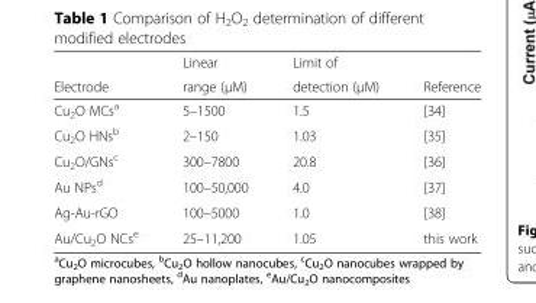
<table><thead><tr><td rowspan="2">Electrode</td><td rowspan="2">Linear range (μM)</td><td rowspan="2">Limit of detection (μM)</td><td rowspan="2">Reference</td></tr><tr></tr></thead><tbody><tr><td>Cu<sub>2</sub>O MCs<sup>a</sup></td><td>5–1500</td><td>1.5</td><td>[34]</td></tr><tr><td>Cu<sub>2</sub>O HNs<sup>b</sup></td><td>2–150</td><td>1.03</td><td>[35]</td></tr><tr><td>Cu<sub>2</sub>O/GNs<sup>c</sup></td><td>300–7800</td><td>20.8</td><td>[36]</td></tr><tr><td>Au NPs<sup>d</sup></td><td>100–50,000</td><td>4.0</td><td>[37]</td></tr><tr><td>Ag-Au-rGO</td><td>100–5000</td><td>1.0</td><td>[38]</td></tr><tr><td>Au/Cu<sub>2</sub>O NCs<sup>e</sup></td><td>25–11,200</td><td>1.05</td><td>this work</td></tr></tbody></table>